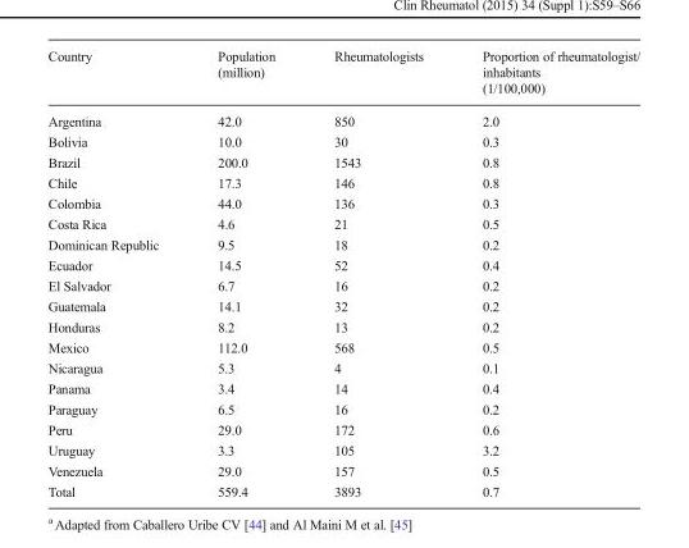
<table><thead><tr><td>Country</td><td>Population (million)</td><td>Rheumatologists</td><td>Proportion of rheumatologist/ inhabitants (1/100,000)</td></tr></thead><tbody><tr><td>Argentina</td><td>42.0</td><td>850</td><td>2.0</td></tr><tr><td>Bolivia</td><td>10.0</td><td>30</td><td>0.3</td></tr><tr><td>Brazil</td><td>200.0</td><td>1543</td><td>0.8</td></tr><tr><td>Chile</td><td>17.3</td><td>146</td><td>0.8</td></tr><tr><td>Colombia</td><td>44.0</td><td>136</td><td>0.3</td></tr><tr><td>Costa Rica</td><td>4.6</td><td>21</td><td>0.5</td></tr><tr><td>Dominican Republic</td><td>9.5</td><td>18</td><td>0.2</td></tr><tr><td>Ecuador</td><td>14.5</td><td>52</td><td>0.4</td></tr><tr><td>El Salvador</td><td>6.7</td><td>16</td><td>0.2</td></tr><tr><td>Guatemala</td><td>14.1</td><td>32</td><td>0.2</td></tr><tr><td>Honduras</td><td>8.2</td><td>13</td><td>0.2</td></tr><tr><td>Mexico</td><td>112.0</td><td>568</td><td>0.5</td></tr><tr><td>Nicaragua</td><td>5.3</td><td>4</td><td>0.1</td></tr><tr><td>Panama</td><td>3.4</td><td>14</td><td>0.4</td></tr><tr><td>Paraguay</td><td>6.5</td><td>16</td><td>0.2</td></tr><tr><td>Peru</td><td>29.0</td><td>172</td><td>0.6</td></tr><tr><td>Uruguay</td><td>3.3</td><td>105</td><td>3.2</td></tr><tr><td>Venezuela</td><td>29.0</td><td>157</td><td>0.5</td></tr><tr><td>Total</td><td>559.4</td><td>3893</td><td>0.7</td></tr></tbody></table>